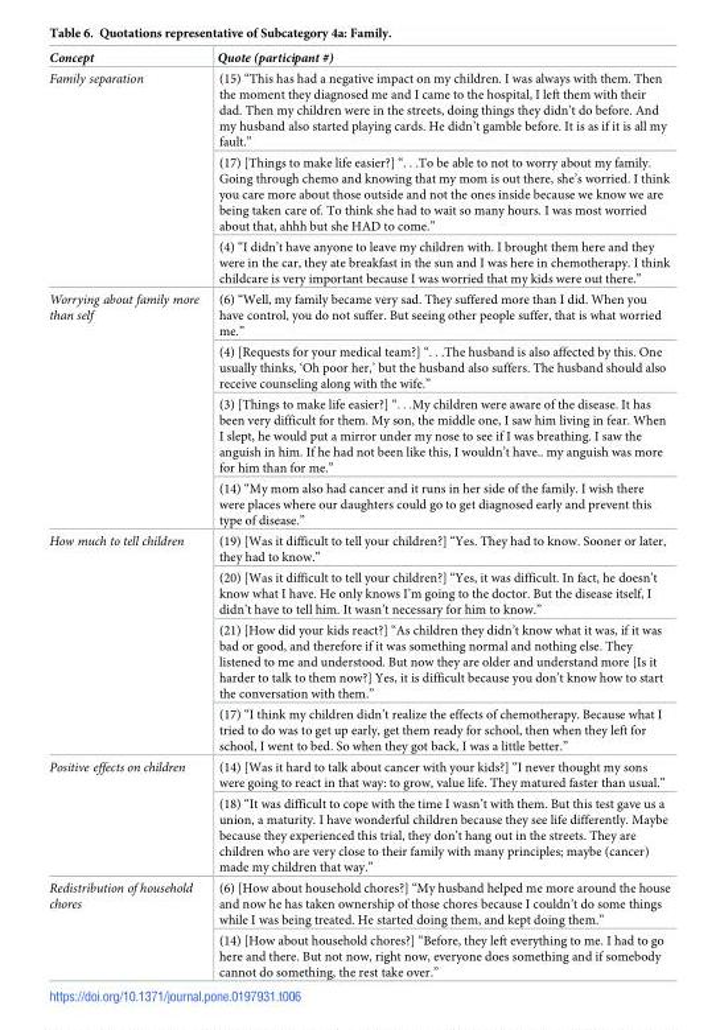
<table><thead><tr><td>Concept</td><td>Quote (participant #)</td></tr></thead><tbody><tr><td rowspan="3">Family separation</td><td>(15) “This has had a negative impact on my children. I was always with them. Then the moment they diagnosed me and I came to the hospital, I left them with their dad. Then my children were in the streets, doing things they didn’t do before. And my husband also started playing cards. He didn’t gamble before. It is as if it is all my fault.”</td></tr><tr><td>(17) [Things to make life easier?] “. . .To be able to not to worry about my family. Going through chemo and knowing that my mom is out there, she’s worried. I think you care more about those outside and not the ones inside because we know we are being taken care of. To think she had to wait so many hours. I was most worried about that, ahhh but she HAD to come.”</td></tr><tr><td>(4) “I didn’t have anyone to leave my children with. I brought them here and they were in the car, they ate breakfast in the sun and I was here in chemotherapy. I think childcare is very important because I was worried that my kids were out there.”</td></tr><tr><td rowspan="4">Worrying about family more than self</td><td>(6) “Well, my family became very sad. They suffered more than I did. When you have control, you do not suffer. But seeing other people suffer, that is what worried me.”</td></tr><tr><td>(4) [Requests for your medical team?] “. . .The husband is also affected by this. One usually thinks, ‘Oh poor her,’ but the husband also suffers. The husband should also receive counseling along with the wife.”</td></tr><tr><td>(3) [Things to make life easier?] “. . .My children were aware of the disease. It has been very difficult for them. My son, the middle one, I saw him living in fear. When I slept, he would put a mirror under my nose to see if I was breathing. I saw the anguish in him. If he had not been like this, I wouldn’t have.. my anguish was more for him than for me.”</td></tr><tr><td>(14) “My mom also had cancer and it runs in her side of the family. I wish there were places where our daughters could go to get diagnosed early and prevent this type of disease.”</td></tr><tr><td rowspan="4">How much to tell children</td><td>(19) [Was it difficult to tell your children?] “Yes. They had to know. Sooner or later, they had to know.”</td></tr><tr><td>(20) [Was it difficult to tell your children?] “Yes, it was difficult. In fact, he doesn’t know what I have. He only knows I’m going to the doctor. But the disease itself, I didn’t have to tell him. It wasn’t necessary for him to know.”</td></tr><tr><td>(21) [How did your kids react?] “As children they didn’t know what it was, if it was bad or good, and therefore if it was something normal and nothing else. They listened to me and understood. But now they are older and understand more [Is it harder to talk to them now?] Yes, it is difficult because you don’t know how to start the conversation with them.”</td></tr><tr><td>(17) “I think my children didn’t realize the effects of chemotherapy. Because what I tried to do was to get up early, get them ready for school, then when they left for school, I went to bed. So when they got back, I was a little better.”</td></tr><tr><td rowspan="2">Positive effects on children</td><td>(14) [Was it hard to talk about cancer with your kids?] “I never thought my sons were going to react in that way: to grow, value life. They matured faster than usual.”</td></tr><tr><td>(18) “It was difficult to cope with the time I wasn’t with them. But this test gave us a union, a maturity. I have wonderful children because they see life differently. Maybe because they experienced this trial, they don’t hang out in the streets. They are children who are very close to their family with many principles; maybe (cancer) made my children that way.”</td></tr><tr><td rowspan="2">Redistribution of household chores</td><td>(6) [How about household chores?] “My husband helped me more around the house and now he has taken ownership of those chores because I couldn’t do some things while I was being treated. He started doing them, and kept doing them.”</td></tr><tr><td>(14) [How about household chores?] “Before, they left everything to me. I had to go here and there. But not now, right now, everyone does something and if somebody cannot do something, the rest take over.”</td></tr></tbody></table>